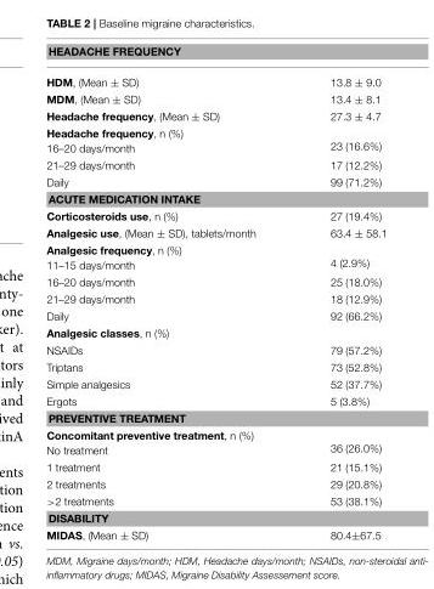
<table><thead><tr><td colspan="2">HEADACHE FREQUENCY</td></tr><tr><td>HDM, (Mean ± SD)</td><td>13.8 ± 9.0</td></tr></thead><tbody><tr><td>MDM, (Mean ± SD)</td><td>13.4 ± 8.1</td></tr><tr><td>Headache frequency, (Mean ± SD)</td><td>27.3 ± 4.7</td></tr><tr><td>Headache frequency, n (%) 16–20 days/month</td><td>23 (16.6%)</td></tr><tr><td>21–29 days/month</td><td>17 (12.2%)</td></tr><tr><td>Daily</td><td>99 (71.2%)</td></tr><tr><td colspan="2">ACUTE MEDICATION INTAKE</td></tr><tr><td>Corticosteroids use, n (%)</td><td>27 (19.4%)</td></tr><tr><td>Analgesic use, (Mean ± SD), tablets/month</td><td>63.4 ± 58.1</td></tr><tr><td>Analgesic frequency, n (%) 11–15 days/month</td><td>4 (2.9%)</td></tr><tr><td>16–20 days/month</td><td>25 (18.0%)</td></tr><tr><td>21–29 days/month</td><td>18 (12.9%)</td></tr><tr><td>Daily</td><td>92 (66.2%)</td></tr><tr><td colspan="2">Analgesic classes, n (%)</td></tr><tr><td>NSAIDs</td><td>79 (57.2%)</td></tr><tr><td>Triptans</td><td>73 (52.8%)</td></tr><tr><td>Simple analgesics</td><td>52 (37.7%)</td></tr><tr><td>Ergots</td><td>5 (3.8%)</td></tr><tr><td colspan="2">PREVENTIVE TREATMENT</td></tr><tr><td>Concomitant preventive treatment, n (%) No treatment</td><td>36 (26.0%)</td></tr><tr><td>1 treatment</td><td>21 (15.1%)</td></tr><tr><td>2 treatments</td><td>29 (20.8%)</td></tr><tr><td>&gt;2 treatments</td><td>53 (38.1%)</td></tr><tr><td colspan="2">DISABILITY</td></tr><tr><td>MIDAS, (Mean ± SD)</td><td>80.4±67.5</td></tr></tbody></table>